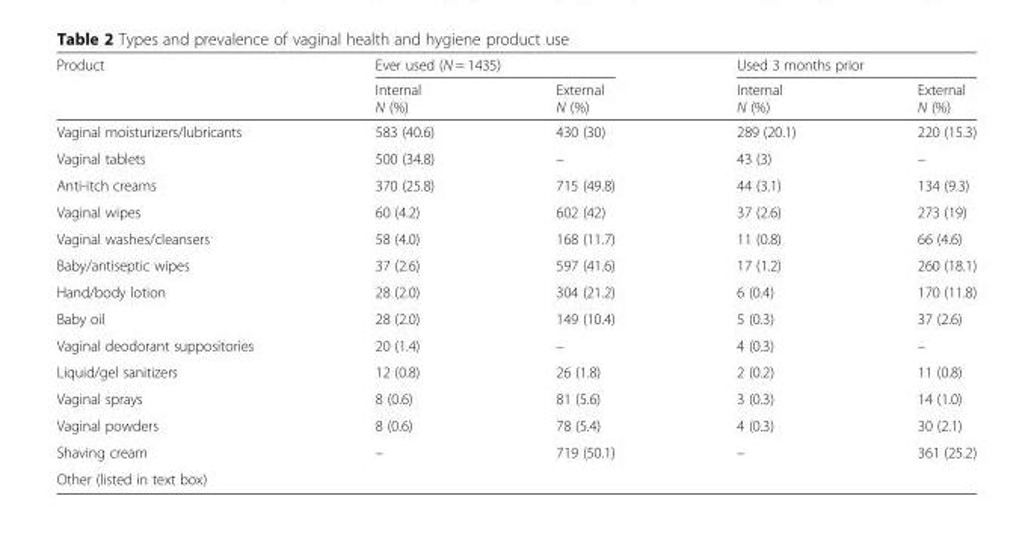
<table><thead><tr><td rowspan="2">Product</td><td colspan="2">Ever used (N = 1435)</td><td colspan="2">Used 3 months prior</td></tr><tr><td>Internal N (%)</td><td>External N (%)</td><td>Internal N (%)</td><td>External N (%)</td></tr></thead><tbody><tr><td>Vaginal moisturizers/lubricants</td><td>583 (40.6)</td><td>430 (30)</td><td>289 (20.1)</td><td>220 (15.3)</td></tr><tr><td>Vaginal tablets</td><td>500 (34.8)</td><td>–</td><td>43 (3)</td><td>–</td></tr><tr><td>Anti-itch creams</td><td>370 (25.8)</td><td>715 (49.8)</td><td>44 (3.1)</td><td>134 (9.3)</td></tr><tr><td>Vaginal wipes</td><td>60 (4.2)</td><td>602 (42)</td><td>37 (2.6)</td><td>273 (19)</td></tr><tr><td>Vaginal washes/cleansers</td><td>58 (4.0)</td><td>168 (11.7)</td><td>11 (0.8)</td><td>66 (4.6)</td></tr><tr><td>Baby/antiseptic wipes</td><td>37 (2.6)</td><td>597 (41.6)</td><td>17 (1.2)</td><td>260 (18.1)</td></tr><tr><td>Hand/body lotion</td><td>28 (2.0)</td><td>304 (21.2)</td><td>6 (0.4)</td><td>170 (11.8)</td></tr><tr><td>Baby oil</td><td>28 (2.0)</td><td>149 (10.4)</td><td>5 (0.3)</td><td>37 (2.6)</td></tr><tr><td>Vaginal deodorant suppositories</td><td>20 (1.4)</td><td>–</td><td>4 (0.3)</td><td>–</td></tr><tr><td>Liquid/gel sanitizers</td><td>12 (0.8)</td><td>26 (1.8)</td><td>2 (0.2)</td><td>11 (0.8)</td></tr><tr><td>Vaginal sprays</td><td>8 (0.6)</td><td>81 (5.6)</td><td>3 (0.3)</td><td>14 (1.0)</td></tr><tr><td>Vaginal powders</td><td>8 (0.6)</td><td>78 (5.4)</td><td>4 (0.3)</td><td>30 (2.1)</td></tr><tr><td>Shaving cream</td><td>–</td><td>719 (50.1)</td><td>–</td><td>361 (25.2)</td></tr><tr><td>Other (listed in text box)</td><td></td><td></td><td></td><td></td></tr></tbody></table>